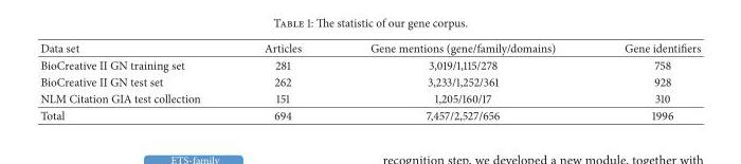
<table><thead><tr><td>Data set</td><td>Articles</td><td>Gene mentions (gene/family/domains)</td><td>Gene identifiers</td></tr></thead><tbody><tr><td>BioCreative II GN training set</td><td>281</td><td>3,019/1,115/278</td><td>758</td></tr><tr><td>BioCreative II GN test set</td><td>262</td><td>3,233/1,252/361</td><td>928</td></tr><tr><td>NLM Citation GIA test collection</td><td>151</td><td>1,205/160/17</td><td>310</td></tr><tr><td>Total</td><td>694</td><td>7,457/2,527/656</td><td>1996</td></tr></tbody></table>